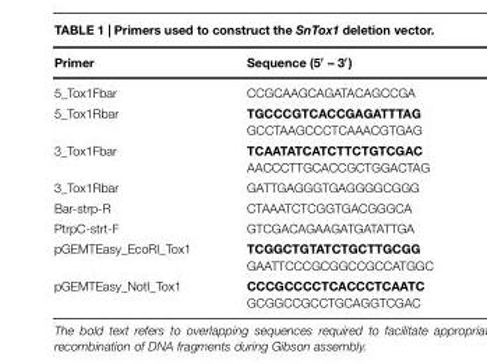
<table><thead><tr><td>Primer</td><td>Sequence (5′ – 3′)</td></tr></thead><tbody><tr><td>5_Tox1Fbar</td><td>CCGCAAGCAGATACAGCCGA</td></tr><tr><td>5_Tox1Rbar</td><td>TGCCCGTCACCGAGATTTAG GCCTAAGCCCTCAAACGTGAG</td></tr><tr><td>3_Tox1Fbar</td><td>TCAATATCATCTTCTGTCGAC AACCCTTGCACCGCTGGACTAG</td></tr><tr><td>3_Tox1Rbar</td><td>GATTGAGGGTGAGGGGCGGG</td></tr><tr><td>Bar-strp-R</td><td>CTAAATCTCGGTGACGGGCA</td></tr><tr><td>PtrpC-strt-F</td><td>GTCGACAGAAGATGATATTGA</td></tr><tr><td>pGEMTEasy_EcoRI_Tox1</td><td>TCGGCTGTATCTGCTTGCGG GAATTCCCGCGGCCGCCATGGC</td></tr><tr><td>pGEMTEasy_NotI_Tox1</td><td>CCCGCCCCTCACCCTCAATC GCGGCCGCCTGCAGGTCGAC</td></tr></tbody></table>